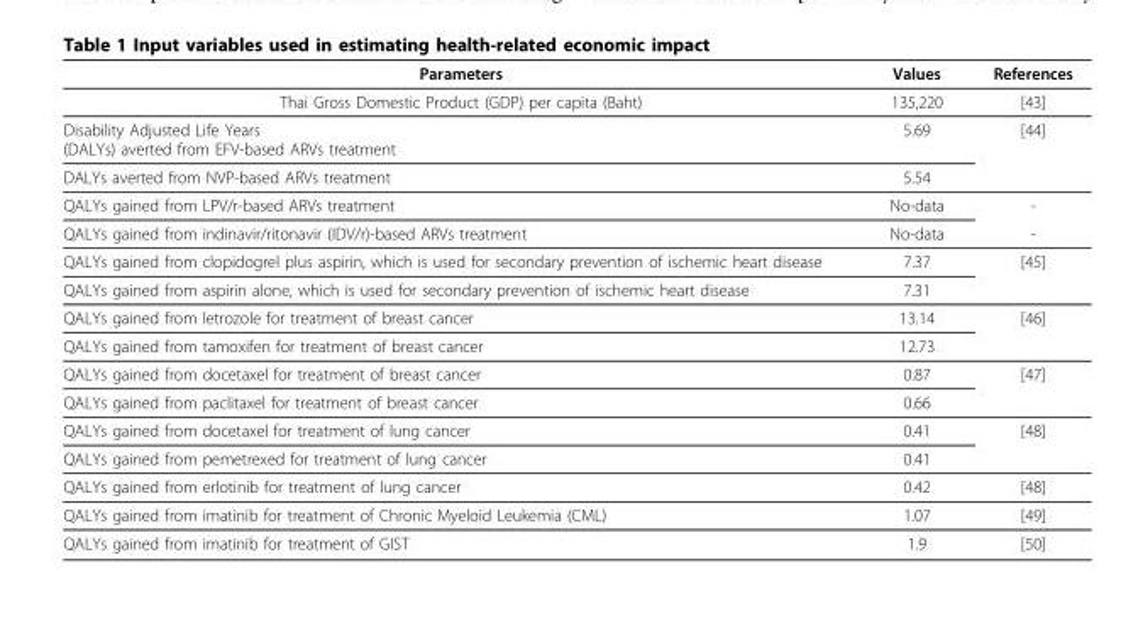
<table><thead><tr><td>Parameters</td><td>Values</td><td>References</td></tr></thead><tbody><tr><td>Thai Gross Domestic Product (GDP) per capita (Baht)</td><td>135,220</td><td>[43]</td></tr><tr><td>Disability Adjusted Life Years (DALYs) averted from EFV-based ARVs treatment</td><td>5.69</td><td>[44]</td></tr><tr><td>DALYs averted from NVP-based ARVs treatment</td><td>5.54</td><td></td></tr><tr><td>QALYs gained from LPV/r-based ARVs treatment</td><td>No-data</td><td>-</td></tr><tr><td>QALYs gained from indinavir/ritonavir (IDV/r)-based ARVs treatment</td><td>No-data</td><td>-</td></tr><tr><td>QALYs gained from clopidogrel plus aspirin, which is used for secondary prevention of ischemic heart disease</td><td>7.37</td><td>[45]</td></tr><tr><td>QALYs gained from aspirin alone, which is used for secondary prevention of ischemic heart disease</td><td>7.31</td><td></td></tr><tr><td>QALYs gained from letrozole for treatment of breast cancer</td><td>13.14</td><td>[46]</td></tr><tr><td>QALYs gained from tamoxifen for treatment of breast cancer</td><td>12.73</td><td></td></tr><tr><td>QALYs gained from docetaxel for treatment of breast cancer</td><td>0.87</td><td>[47]</td></tr><tr><td>QALYs gained from paclitaxel for treatment of breast cancer</td><td>0.66</td><td></td></tr><tr><td>QALYs gained from docetaxel for treatment of lung cancer</td><td>0.41</td><td>[48]</td></tr><tr><td>QALYs gained from pemetrexed for treatment of lung cancer</td><td>0.41</td><td></td></tr><tr><td>QALYs gained from erlotinib for treatment of lung cancer</td><td>0.42</td><td>[48]</td></tr><tr><td>QALYs gained from imatinib for treatment of Chronic Myeloid Leukemia (CML)</td><td>1.07</td><td>[49]</td></tr><tr><td>QALYs gained from imatinib for treatment of GIST</td><td>1.9</td><td>[50]</td></tr></tbody></table>